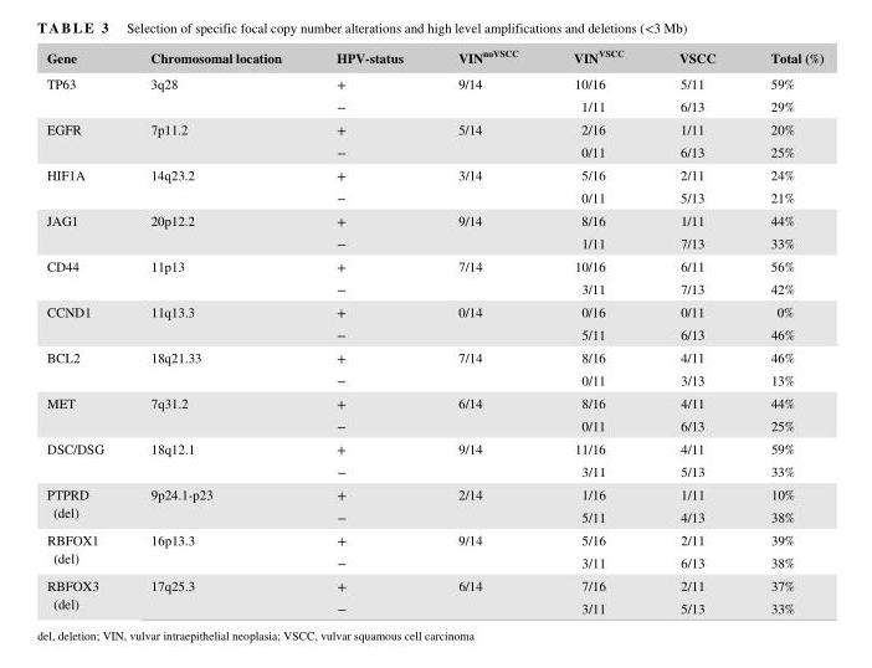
<table><thead><tr><td>Gene</td><td>Chromosomal location</td><td>HPV- status</td><td>VIN<sup>noVSCC</sup></td><td>VIN<sup>VSCC</sup></td><td>VSCC</td><td>Total (%)</td></tr></thead><tbody><tr><td rowspan="2">TP63</td><td rowspan="2">3q28</td><td>+</td><td>9/14</td><td>10/16</td><td>5/11</td><td>59%</td></tr><tr><td>−</td><td></td><td>1/11</td><td>6/13</td><td>29%</td></tr><tr><td rowspan="2">EGFR</td><td rowspan="2">7p11.2</td><td>+</td><td>5/14</td><td>2/16</td><td>1/11</td><td>20%</td></tr><tr><td>−</td><td></td><td>0/11</td><td>6/13</td><td>25%</td></tr><tr><td rowspan="2">HIF1A</td><td rowspan="2">14q23.2</td><td>+</td><td>3/14</td><td>5/16</td><td>2/11</td><td>24%</td></tr><tr><td>−</td><td></td><td>0/11</td><td>5/13</td><td>21%</td></tr><tr><td rowspan="2">JAG1</td><td rowspan="2">20p12.2</td><td>+</td><td>9/14</td><td>8/16</td><td>1/11</td><td>44%</td></tr><tr><td>−</td><td></td><td>1/11</td><td>7/13</td><td>33%</td></tr><tr><td rowspan="2">CD44</td><td rowspan="2">11p13</td><td>+</td><td>7/14</td><td>10/16</td><td>6/11</td><td>56%</td></tr><tr><td>−</td><td></td><td>3/11</td><td>7/13</td><td>42%</td></tr><tr><td rowspan="2">CCND1</td><td rowspan="2">11q13.3</td><td>+</td><td>0/14</td><td>0/16</td><td>0/11</td><td>0%</td></tr><tr><td>−</td><td></td><td>5/11</td><td>6/13</td><td>46%</td></tr><tr><td rowspan="2">BCL2</td><td rowspan="2">18q21.33</td><td>+</td><td>7/14</td><td>8/16</td><td>4/11</td><td>46%</td></tr><tr><td>−</td><td></td><td>0/11</td><td>3/13</td><td>13%</td></tr><tr><td rowspan="2">MET</td><td rowspan="2">7q31.2</td><td>+</td><td>6/14</td><td>8/16</td><td>4/11</td><td>44%</td></tr><tr><td>−</td><td></td><td>0/11</td><td>6/13</td><td>25%</td></tr><tr><td rowspan="2">DSC/DSG</td><td rowspan="2">18q12.1</td><td>+</td><td>9/14</td><td>11/16</td><td>4/11</td><td>59%</td></tr><tr><td>−</td><td></td><td>3/11</td><td>5/13</td><td>33%</td></tr><tr><td rowspan="2">PTPRD (del)</td><td rowspan="2">9p24.1- p23</td><td>+</td><td>2/14</td><td>1/16</td><td>1/11</td><td>10%</td></tr><tr><td>−</td><td></td><td>5/11</td><td>4/13</td><td>38%</td></tr><tr><td rowspan="2">RBFOX1 (del)</td><td rowspan="2">16p13.3</td><td>+</td><td>9/14</td><td>5/16</td><td>2/11</td><td>39%</td></tr><tr><td>−</td><td></td><td>3/11</td><td>6/13</td><td>38%</td></tr><tr><td rowspan="2">RBFOX3 (del)</td><td rowspan="2">17q25.3</td><td>+</td><td>6/14</td><td>7/16</td><td>2/11</td><td>37%</td></tr><tr><td>−</td><td></td><td>3/11</td><td>5/13</td><td>33%</td></tr></tbody></table>